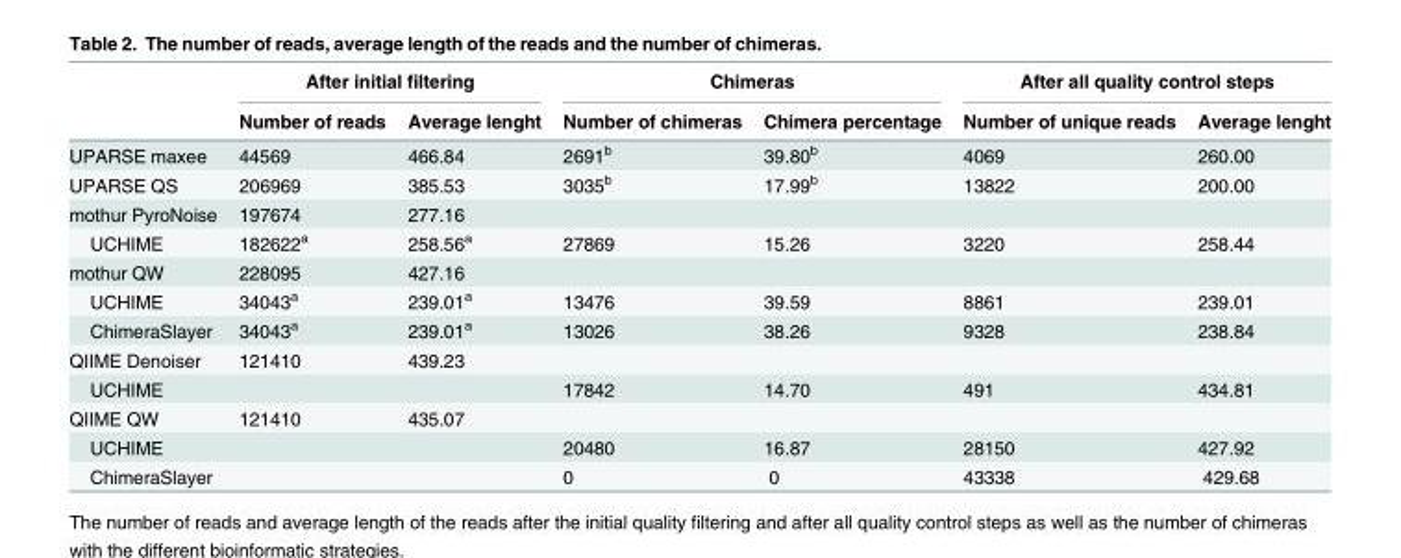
<table><thead><tr><td rowspan="2"></td><td colspan="2">After initial filtering</td><td colspan="2">Chimeras</td><td colspan="2">After all quality control steps</td></tr><tr><td>Number of reads</td><td>Average lenght</td><td>Number of chimeras</td><td>Chimera percentage</td><td>Number of unique reads</td><td>Average lenght</td></tr></thead><tbody><tr><td>UPARSE maxee</td><td>44569</td><td>466.84</td><td>2691<sup>b</sup></td><td>39.80<sup>b</sup></td><td>4069</td><td>260.00</td></tr><tr><td>UPARSE QS</td><td>206969</td><td>385.53</td><td>3035<sup>b</sup></td><td>17.99<sup>b</sup></td><td>13822</td><td>200.00</td></tr><tr><td>mothur PyroNoise</td><td>197674</td><td>277.16</td><td></td><td></td><td></td><td></td></tr><tr><td>UCHIME</td><td>182622<sup>a</sup></td><td>258.56<sup>a</sup></td><td>27869</td><td>15.26</td><td>3220</td><td>258.44</td></tr><tr><td>mothur QW</td><td>228095</td><td>427.16</td><td></td><td></td><td></td><td></td></tr><tr><td>UCHIME</td><td>34043<sup>a</sup></td><td>239.01<sup>a</sup></td><td>13476</td><td>39.59</td><td>8861</td><td>239.01</td></tr><tr><td>ChimeraSlayer</td><td>34043<sup>a</sup></td><td>239.01<sup>a</sup></td><td>13026</td><td>38.26</td><td>9328</td><td>238.84</td></tr><tr><td>QIIME Denoiser</td><td>121410</td><td>439.23</td><td></td><td></td><td></td><td></td></tr><tr><td>UCHIME</td><td></td><td></td><td>17842</td><td>14.70</td><td>491</td><td>434.81</td></tr><tr><td>QIIME QW</td><td>121410</td><td>435.07</td><td></td><td></td><td></td><td></td></tr><tr><td>UCHIME</td><td></td><td></td><td>20480</td><td>16.87</td><td>28150</td><td>427.92</td></tr><tr><td>ChimeraSlayer</td><td></td><td></td><td>0</td><td>0</td><td>43338</td><td>429.68</td></tr></tbody></table>